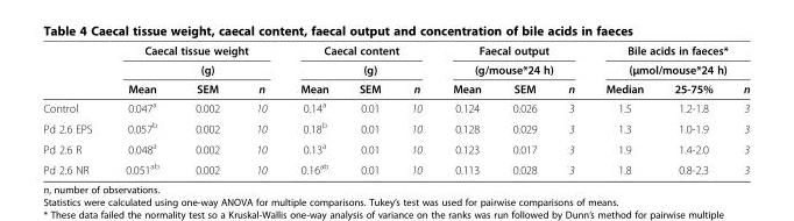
<table><thead><tr><td rowspan="3"></td><td colspan="3">Caecal tissue weight</td><td colspan="3">Caecal content</td><td rowspan="2" colspan="3">Faecal output (g/mouse*24 h)</td><td rowspan="2" colspan="3">Bile acids in faeces* (μmol/mouse*24 h)</td></tr><tr><td rowspan="2">Mean</td><td rowspan="2">(g) SEM</td><td rowspan="2">n</td><td rowspan="2">Mean</td><td rowspan="2">(g) SEM</td><td rowspan="2">n</td></tr><tr><td>Mean</td><td>SEM</td><td>n</td><td>Median</td><td>25-75%</td><td>n</td></tr></thead><tbody><tr><td>Control</td><td>0.047<sup>a</sup></td><td>0.002</td><td>10</td><td>0.14<sup>a</sup></td><td>0.01</td><td>10</td><td>0.124</td><td>0.026</td><td>3</td><td>1.5</td><td>1.2-1.8</td><td>3</td></tr><tr><td>Pd 2.6 EPS</td><td>0.057<sup>b</sup></td><td>0.002</td><td>10</td><td>0.18<sup>b</sup></td><td>0.01</td><td>10</td><td>0.128</td><td>0.029</td><td>3</td><td>1.3</td><td>1.0-1.9</td><td>3</td></tr><tr><td>Pd 2.6 R</td><td>0.048<sup>a</sup></td><td>0.002</td><td>10</td><td>0.13<sup>a</sup></td><td>0.01</td><td>10</td><td>0.123</td><td>0.017</td><td>3</td><td>1.9</td><td>1.4-2.0</td><td>3</td></tr><tr><td>Pd 2.6 NR</td><td>0.051<sup>ab</sup></td><td>0.002</td><td>10</td><td>0.16<sup>ab</sup></td><td>0.01</td><td>10</td><td>0.113</td><td>0.028</td><td>3</td><td>1.8</td><td>0.8-2.3</td><td>3</td></tr></tbody></table>